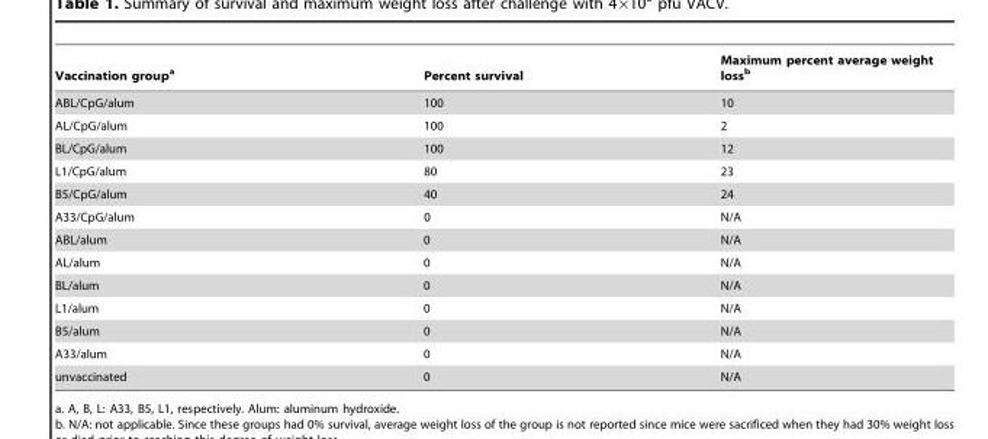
<table><thead><tr><td>Vaccination group<sup>a</sup></td><td>Percent survival</td><td>Maximum percent average weight loss<sup>b</sup></td></tr></thead><tbody><tr><td>ABL/CpG/alum</td><td>100</td><td>10</td></tr><tr><td>AL/CpG/alum</td><td>100</td><td>2</td></tr><tr><td>BL/CpG/alum</td><td>100</td><td>12</td></tr><tr><td>L1/CpG/alum</td><td>80</td><td>23</td></tr><tr><td>B5/CpG/alum</td><td>40</td><td>24</td></tr><tr><td>A33/CpG/alum</td><td>0</td><td>N/A</td></tr><tr><td>ABL/alum</td><td>0</td><td>N/A</td></tr><tr><td>AL/alum</td><td>0</td><td>N/A</td></tr><tr><td>BL/alum</td><td>0</td><td>N/A</td></tr><tr><td>L1/alum</td><td>0</td><td>N/A</td></tr><tr><td>B5/alum</td><td>0</td><td>N/A</td></tr><tr><td>A33/alum</td><td>0</td><td>N/A</td></tr><tr><td>unvaccinated</td><td>0</td><td>N/A</td></tr></tbody></table>